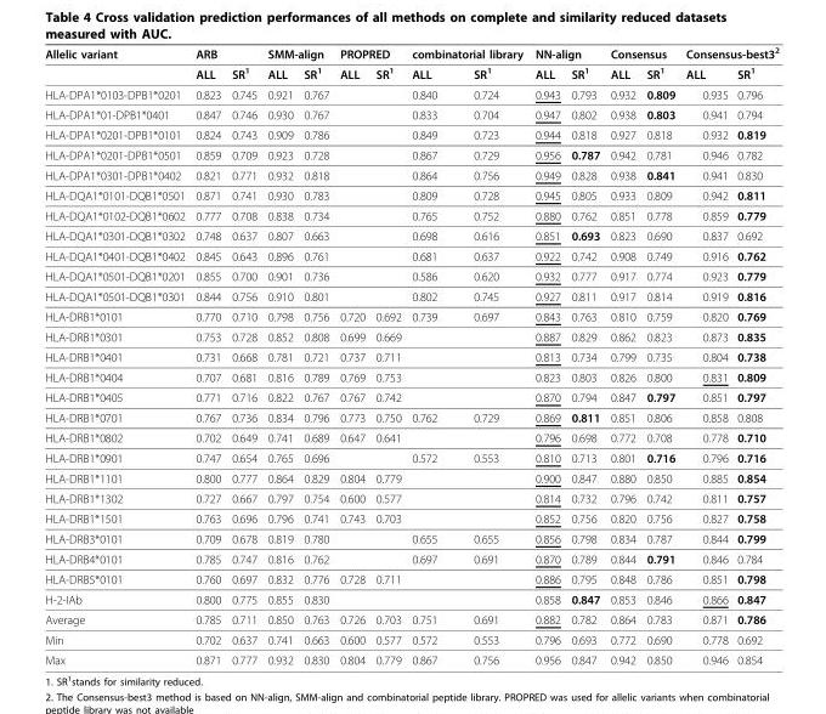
<table><thead><tr><td rowspan="2">Allelic variant</td><td colspan="2">ARB</td><td colspan="2">SMM-align</td><td colspan="2">PROPRED</td><td colspan="2">combinatorial library</td><td colspan="2">NN-align</td><td colspan="2">Consensus</td><td colspan="2">Consensus-best3<sup>2</sup></td></tr><tr><td>ALL</td><td>SR<sup>1</sup></td><td>ALL</td><td>SR<sup>1</sup></td><td>ALL</td><td>SR<sup>1</sup></td><td>ALL</td><td>SR<sup>1</sup></td><td>ALL</td><td>SR<sup>1</sup></td><td>ALL</td><td>SR<sup>1</sup></td><td>ALL</td><td>SR<sup>1</sup></td></tr></thead><tbody><tr><td>HLA-DPA1*0103-DPB1*0201</td><td>0.823</td><td>0.745</td><td>0.921</td><td>0.767</td><td></td><td></td><td>0.840</td><td>0.724</td><td>0.943</td><td>0.793</td><td>0.932</td><td>0.809</td><td>0.935</td><td>0.796</td></tr><tr><td>HLA-DPA1*01-DPB1*0401</td><td>0.847</td><td>0.746</td><td>0.930</td><td>0.767</td><td></td><td></td><td>0.833</td><td>0.704</td><td>0.947</td><td>0.802</td><td>0.938</td><td>0.803</td><td>0.941</td><td>0.794</td></tr><tr><td>HLA-DPA1*0201-DPB1*0101</td><td>0.824</td><td>0.743</td><td>0.909</td><td>0.786</td><td></td><td></td><td>0.849</td><td>0.723</td><td>0.944</td><td>0.818</td><td>0.927</td><td>0.818</td><td>0.932</td><td>0.819</td></tr><tr><td>HLA-DPA1*0201-DPB1*0501</td><td>0.859</td><td>0.709</td><td>0.923</td><td>0.728</td><td></td><td></td><td>0.867</td><td>0.729</td><td>0.956</td><td>0.787</td><td>0.942</td><td>0.781</td><td>0.946</td><td>0.782</td></tr><tr><td>HLA-DPA1*0301-DPB1*0402</td><td>0.821</td><td>0.771</td><td>0.932</td><td>0.818</td><td></td><td></td><td>0.864</td><td>0.756</td><td>0.949</td><td>0.828</td><td>0.938</td><td>0.841</td><td>0.941</td><td>0.830</td></tr><tr><td>HLA-DQA1*0101-DQB1*0501</td><td>0.871</td><td>0.741</td><td>0.930</td><td>0.783</td><td></td><td></td><td>0.809</td><td>0.728</td><td>0.945</td><td>0.805</td><td>0.933</td><td>0.809</td><td>0.942</td><td>0.811</td></tr><tr><td>HLA-DQA1*0102-DQB1*0602</td><td>0.777</td><td>0.708</td><td>0.838</td><td>0.734</td><td></td><td></td><td>0.765</td><td>0.752</td><td>0.880</td><td>0.762</td><td>0.851</td><td>0.778</td><td>0.859</td><td>0.779</td></tr><tr><td>HLA-DQA1*0301-DQB1*0302</td><td>0.748</td><td>0.637</td><td>0.807</td><td>0.663</td><td></td><td></td><td>0.698</td><td>0.616</td><td>0.851</td><td>0.693</td><td>0.823</td><td>0.690</td><td>0.837</td><td>0.692</td></tr><tr><td>HLA-DQA1*0401-DQB1*0402</td><td>0.845</td><td>0.643</td><td>0.896</td><td>0.761</td><td></td><td></td><td>0.681</td><td>0.637</td><td>0.922</td><td>0.742</td><td>0.908</td><td>0.749</td><td>0.916</td><td>0.762</td></tr><tr><td>HLA-DQA1*0501-DQB1*0201</td><td>0.855</td><td>0.700</td><td>0.901</td><td>0.736</td><td></td><td></td><td>0.586</td><td>0.620</td><td>0.932</td><td>0.777</td><td>0.917</td><td>0.774</td><td>0.923</td><td>0.779</td></tr><tr><td>HLA-DQA1*0501-DQB1*0301</td><td>0.844</td><td>0.756</td><td>0.910</td><td>0.801</td><td></td><td></td><td>0.802</td><td>0.745</td><td>0.927</td><td>0.811</td><td>0.917</td><td>0.814</td><td>0.919</td><td>0.816</td></tr><tr><td>HLA-DRB1*0101</td><td>0.770</td><td>0.710</td><td>0.798</td><td>0.756</td><td>0.720</td><td>0.692</td><td>0.739</td><td>0.697</td><td>0.843</td><td>0.763</td><td>0.810</td><td>0.759</td><td>0.820</td><td>0.769</td></tr><tr><td>HLA-DRB1*0301</td><td>0.753</td><td>0.728</td><td>0.852</td><td>0.808</td><td>0.699</td><td>0.669</td><td></td><td></td><td>0.887</td><td>0.829</td><td>0.862</td><td>0.823</td><td>0.873</td><td>0.835</td></tr><tr><td>HLA-DRB1*0401</td><td>0.731</td><td>0.668</td><td>0.781</td><td>0.721</td><td>0.737</td><td>0.711</td><td></td><td></td><td>0.813</td><td>0.734</td><td>0.799</td><td>0.735</td><td>0.804</td><td>0.738</td></tr><tr><td>HLA-DRB1*0404</td><td>0.707</td><td>0.681</td><td>0.816</td><td>0.789</td><td>0.769</td><td>0.753</td><td></td><td></td><td>0.823</td><td>0.803</td><td>0.826</td><td>0.800</td><td>0.831</td><td>0.809</td></tr><tr><td>HLA-DRB1*0405</td><td>0.771</td><td>0.716</td><td>0.822</td><td>0.767</td><td>0.767</td><td>0.742</td><td></td><td></td><td>0.870</td><td>0.794</td><td>0.847</td><td>0.797</td><td>0.851</td><td>0.797</td></tr><tr><td>HLA-DRB1*0701</td><td>0.767</td><td>0.736</td><td>0.834</td><td>0.796</td><td>0.773</td><td>0.750</td><td>0.762</td><td>0.729</td><td>0.869</td><td>0.811</td><td>0.851</td><td>0.806</td><td>0.858</td><td>0.808</td></tr><tr><td>HLA-DRB1*0802</td><td>0.702</td><td>0.649</td><td>0.741</td><td>0.689</td><td>0.647</td><td>0.641</td><td></td><td></td><td>0.796</td><td>0.698</td><td>0.772</td><td>0.708</td><td>0.778</td><td>0.710</td></tr><tr><td>HLA-DRB1*0901</td><td>0.747</td><td>0.654</td><td>0.765</td><td>0.696</td><td></td><td></td><td>0.572</td><td>0.553</td><td>0.810</td><td>0.713</td><td>0.801</td><td>0.716</td><td>0.796</td><td>0.716</td></tr><tr><td>HLA-DRB1*1101</td><td>0.800</td><td>0.777</td><td>0.864</td><td>0.829</td><td>0.804</td><td>0.779</td><td></td><td></td><td>0.900</td><td>0.847</td><td>0.880</td><td>0.850</td><td>0.885</td><td>0.854</td></tr><tr><td>HLA-DRB1*1302</td><td>0.727</td><td>0.667</td><td>0.797</td><td>0.754</td><td>0.600</td><td>0.577</td><td></td><td></td><td>0.814</td><td>0.732</td><td>0.796</td><td>0.742</td><td>0.811</td><td>0.757</td></tr><tr><td>HLA-DRB1*1501</td><td>0.763</td><td>0.696</td><td>0.796</td><td>0.741</td><td>0.743</td><td>0.703</td><td></td><td></td><td>0.852</td><td>0.756</td><td>0.820</td><td>0.756</td><td>0.827</td><td>0.758</td></tr><tr><td>HLA-DRB3*0101</td><td>0.709</td><td>0.678</td><td>0.819</td><td>0.780</td><td></td><td></td><td>0.655</td><td>0.655</td><td>0.856</td><td>0.798</td><td>0.834</td><td>0.787</td><td>0.844</td><td>0.799</td></tr><tr><td>HLA-DRB4*0101</td><td>0.785</td><td>0.747</td><td>0.816</td><td>0.762</td><td></td><td></td><td>0.697</td><td>0.691</td><td>0.870</td><td>0.789</td><td>0.844</td><td>0.791</td><td>0.846</td><td>0.784</td></tr><tr><td>HLA-DRB5*0101</td><td>0.760</td><td>0.697</td><td>0.832</td><td>0.776</td><td>0.728</td><td>0.711</td><td></td><td></td><td>0.886</td><td>0.795</td><td>0.848</td><td>0.786</td><td>0.851</td><td>0.798</td></tr><tr><td>H-2-IAb</td><td>0.800</td><td>0.775</td><td>0.855</td><td>0.830</td><td></td><td></td><td></td><td></td><td>0.858</td><td>0.847</td><td>0.853</td><td>0.846</td><td>0.866</td><td>0.847</td></tr><tr><td>Average</td><td>0.785</td><td>0.711</td><td>0.850</td><td>0.763</td><td>0.726</td><td>0.703</td><td>0.751</td><td>0.691</td><td>0.882</td><td>0.782</td><td>0.864</td><td>0.783</td><td>0.871</td><td>0.786</td></tr><tr><td>Min</td><td>0.702</td><td>0.637</td><td>0.741</td><td>0.663</td><td>0.600</td><td>0.577</td><td>0.572</td><td>0.553</td><td>0.796</td><td>0.693</td><td>0.772</td><td>0.690</td><td>0.778</td><td>0.692</td></tr><tr><td>Max</td><td>0.871</td><td>0.777</td><td>0.932</td><td>0.830</td><td>0.804</td><td>0.779</td><td>0.867</td><td>0.756</td><td>0.956</td><td>0.847</td><td>0.942</td><td>0.850</td><td>0.946</td><td>0.854</td></tr></tbody></table>